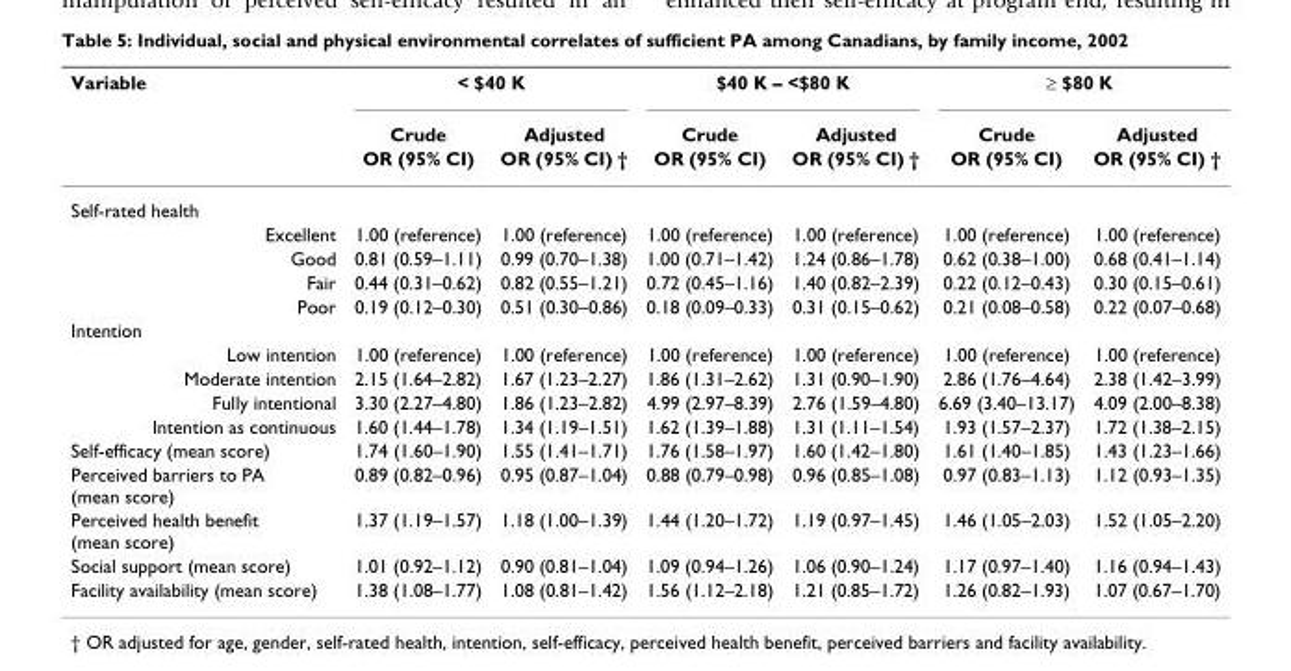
<table><thead><tr><td rowspan="3">Variable</td><td colspan="2">&lt; $40 K</td><td colspan="2">$40 K – &lt;$80 K</td><td colspan="2">≥ $80 K</td></tr><tr><td rowspan="2">Crude OR (95% CI)</td><td rowspan="2">Adjusted OR (95% CI) †</td><td rowspan="2">Crude OR (95% CI)</td><td rowspan="2">Adjusted OR (95% CI) †</td><td rowspan="2">Crude OR (95% CI)</td><td rowspan="2">Adjusted OR (95% CI) †</td></tr><tr></tr></thead><tbody><tr><td colspan="7">Self-rated health</td></tr><tr><td>Excellent</td><td>1.00 (reference)</td><td>1.00 (reference)</td><td>1.00 (reference)</td><td>1.00 (reference)</td><td>1.00 (reference)</td><td>1.00 (reference)</td></tr><tr><td>Good</td><td>0.81 (0.59–1.11)</td><td>0.99 (0.70–1.38)</td><td>1.00 (0.71–1.42)</td><td>1.24 (0.86–1.78)</td><td>0.62 (0.38–1.00)</td><td>0.68 (0.41–1.14)</td></tr><tr><td>Fair</td><td>0.44 (0.31–0.62)</td><td>0.82 (0.55–1.21)</td><td>0.72 (0.45–1.16)</td><td>1.40 (0.82–2.39)</td><td>0.22 (0.12–0.43)</td><td>0.30 (0.15–0.61)</td></tr><tr><td>Poor</td><td>0.19 (0.12–0.30)</td><td>0.51 (0.30–0.86)</td><td>0.18 (0.09–0.33)</td><td>0.31 (0.15–0.62)</td><td>0.21 (0.08–0.58)</td><td>0.22 (0.07–0.68)</td></tr><tr><td colspan="7">Intention</td></tr><tr><td>Low intention</td><td>1.00 (reference)</td><td>1.00 (reference)</td><td>1.00 (reference)</td><td>1.00 (reference)</td><td>1.00 (reference)</td><td>1.00 (reference)</td></tr><tr><td>Moderate intention</td><td>2.15 (1.64–2.82)</td><td>1.67 (1.23–2.27)</td><td>1.86 (1.31–2.62)</td><td>1.31 (0.90–1.90)</td><td>2.86 (1.76–4.64)</td><td>2.38 (1.42–3.99)</td></tr><tr><td>Fully intentional</td><td>3.30 (2.27–4.80)</td><td>1.86 (1.23–2.82)</td><td>4.99 (2.97–8.39)</td><td>2.76 (1.59–4.80)</td><td>6.69 (3.40–13.17)</td><td>4.09 (2.00–8.38)</td></tr><tr><td>Intention as continuous</td><td>1.60 (1.44–1.78)</td><td>1.34 (1.19–1.51)</td><td>1.62 (1.39–1.88)</td><td>1.31 (1.11–1.54)</td><td>1.93 (1.57–2.37)</td><td>1.72 (1.38–2.15)</td></tr><tr><td>Self-efficacy (mean score)</td><td>1.74 (1.60–1.90)</td><td>1.55 (1.41–1.71)</td><td>1.76 (1.58–1.97)</td><td>1.60 (1.42–1.80)</td><td>1.61 (1.40–1.85)</td><td>1.43 (1.23–1.66)</td></tr><tr><td>Perceived barriers to PA (mean score)</td><td>0.89 (0.82–0.96)</td><td>0.95 (0.87–1.04)</td><td>0.88 (0.79–0.98)</td><td>0.96 (0.85–1.08)</td><td>0.97 (0.83–1.13)</td><td>1.12 (0.93–1.35)</td></tr><tr><td>Perceived health benefit (mean score)</td><td>1.37 (1.19–1.57)</td><td>1.18 (1.00–1.39)</td><td>1.44 (1.20–1.72)</td><td>1.19 (0.97–1.45)</td><td>1.46 (1.05–2.03)</td><td>1.52 (1.05–2.20)</td></tr><tr><td>Social support (mean score)</td><td>1.01 (0.92–1.12)</td><td>0.90 (0.81–1.04)</td><td>1.09 (0.94–1.26)</td><td>1.06 (0.90–1.24)</td><td>1.17 (0.97–1.40)</td><td>1.16 (0.94–1.43)</td></tr><tr><td>Facility availability (mean score)</td><td>1.38 (1.08–1.77)</td><td>1.08 (0.81–1.42)</td><td>1.56 (1.12–2.18)</td><td>1.21 (0.85–1.72)</td><td>1.26 (0.82–1.93)</td><td>1.07 (0.67–1.70)</td></tr></tbody></table>